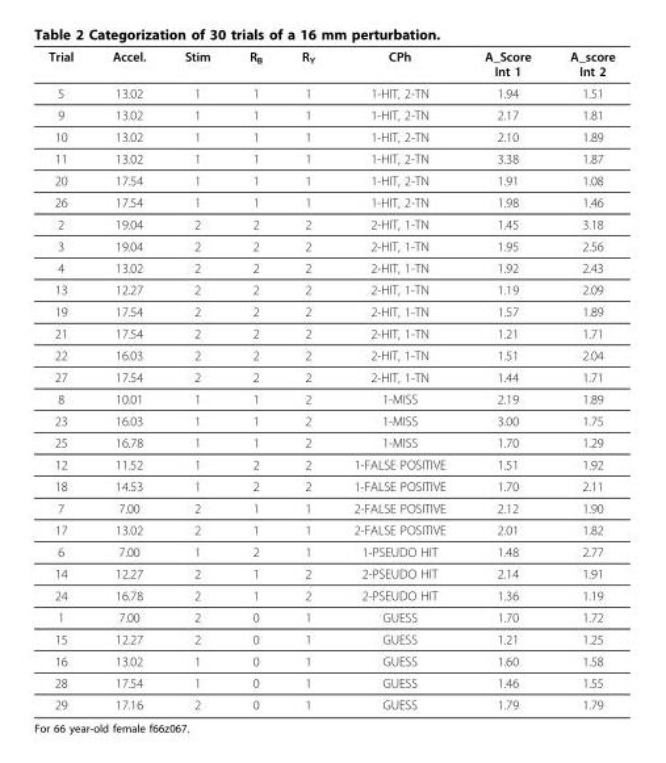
<table><thead><tr><td>Trial</td><td>Accel.</td><td>Stim</td><td>R<sub>B</sub></td><td>R<sub>Y</sub></td><td>CPh</td><td>A_Score Int 1</td><td>A_score Int 2</td></tr></thead><tbody><tr><td>5</td><td>13.02</td><td>1</td><td>1</td><td>1</td><td>1-HIT, 2-TN</td><td>1.94</td><td>1.51</td></tr><tr><td>9</td><td>13.02</td><td>1</td><td>1</td><td>1</td><td>1-HIT, 2-TN</td><td>2.17</td><td>1.81</td></tr><tr><td>10</td><td>13.02</td><td>1</td><td>1</td><td>1</td><td>1-HIT, 2-TN</td><td>2.10</td><td>1.89</td></tr><tr><td>11</td><td>13.02</td><td>1</td><td>1</td><td>1</td><td>1-HIT, 2-TN</td><td>3.38</td><td>1.87</td></tr><tr><td>20</td><td>17.54</td><td>1</td><td>1</td><td>1</td><td>1-HIT, 2-TN</td><td>1.91</td><td>1.08</td></tr><tr><td>26</td><td>17.54</td><td>1</td><td>1</td><td>1</td><td>1-HIT, 2-TN</td><td>1.98</td><td>1.46</td></tr><tr><td>2</td><td>19.04</td><td>2</td><td>2</td><td>2</td><td>2-HIT, 1-TN</td><td>1.45</td><td>3.18</td></tr><tr><td>3</td><td>19.04</td><td>2</td><td>2</td><td>2</td><td>2-HIT, 1-TN</td><td>1.95</td><td>2.56</td></tr><tr><td>4</td><td>13.02</td><td>2</td><td>2</td><td>2</td><td>2-HIT, 1-TN</td><td>1.92</td><td>2.43</td></tr><tr><td>13</td><td>12.27</td><td>2</td><td>2</td><td>2</td><td>2-HIT, 1-TN</td><td>1.19</td><td>2.09</td></tr><tr><td>19</td><td>17.54</td><td>2</td><td>2</td><td>2</td><td>2-HIT, 1-TN</td><td>1.57</td><td>1.89</td></tr><tr><td>21</td><td>17.54</td><td>2</td><td>2</td><td>2</td><td>2-HIT, 1-TN</td><td>1.21</td><td>1.71</td></tr><tr><td>22</td><td>16.03</td><td>2</td><td>2</td><td>2</td><td>2-HIT, 1-TN</td><td>1.51</td><td>2.04</td></tr><tr><td>27</td><td>17.54</td><td>2</td><td>2</td><td>2</td><td>2-HIT, 1-TN</td><td>1.44</td><td>1.71</td></tr><tr><td>8</td><td>10.01</td><td>1</td><td>1</td><td>2</td><td>1-MISS</td><td>2.19</td><td>1.89</td></tr><tr><td>23</td><td>16.03</td><td>1</td><td>1</td><td>2</td><td>1-MISS</td><td>3.00</td><td>1.75</td></tr><tr><td>25</td><td>16.78</td><td>1</td><td>1</td><td>2</td><td>1-MISS</td><td>1.70</td><td>1.29</td></tr><tr><td>12</td><td>11.52</td><td>1</td><td>2</td><td>2</td><td>1-FALSE POSITIVE</td><td>1.51</td><td>1.92</td></tr><tr><td>18</td><td>14.53</td><td>1</td><td>2</td><td>2</td><td>1-FALSE POSITIVE</td><td>1.70</td><td>2.11</td></tr><tr><td>7</td><td>7.00</td><td>2</td><td>1</td><td>1</td><td>2-FALSE POSITIVE</td><td>2.12</td><td>1.90</td></tr><tr><td>17</td><td>13.02</td><td>2</td><td>1</td><td>1</td><td>2-FALSE POSITIVE</td><td>2.01</td><td>1.82</td></tr><tr><td>6</td><td>7.00</td><td>1</td><td>2</td><td>1</td><td>1-PSEUDO HIT</td><td>1.48</td><td>2.77</td></tr><tr><td>14</td><td>12.27</td><td>2</td><td>1</td><td>2</td><td>2-PSEUDO HIT</td><td>2.14</td><td>1.91</td></tr><tr><td>24</td><td>16.78</td><td>2</td><td>1</td><td>2</td><td>2-PSEUDO HIT</td><td>1.36</td><td>1.19</td></tr><tr><td>1</td><td>7.00</td><td>2</td><td>0</td><td>1</td><td>GUESS</td><td>1.70</td><td>1.72</td></tr><tr><td>15</td><td>12.27</td><td>2</td><td>0</td><td>1</td><td>GUESS</td><td>1.21</td><td>1.25</td></tr><tr><td>16</td><td>13.02</td><td>1</td><td>0</td><td>1</td><td>GUESS</td><td>1.60</td><td>1.58</td></tr><tr><td>28</td><td>17.54</td><td>1</td><td>0</td><td>1</td><td>GUESS</td><td>1.46</td><td>1.55</td></tr><tr><td>29</td><td>17.16</td><td>2</td><td>0</td><td>1</td><td>GUESS</td><td>1.79</td><td>1.79</td></tr></tbody></table>